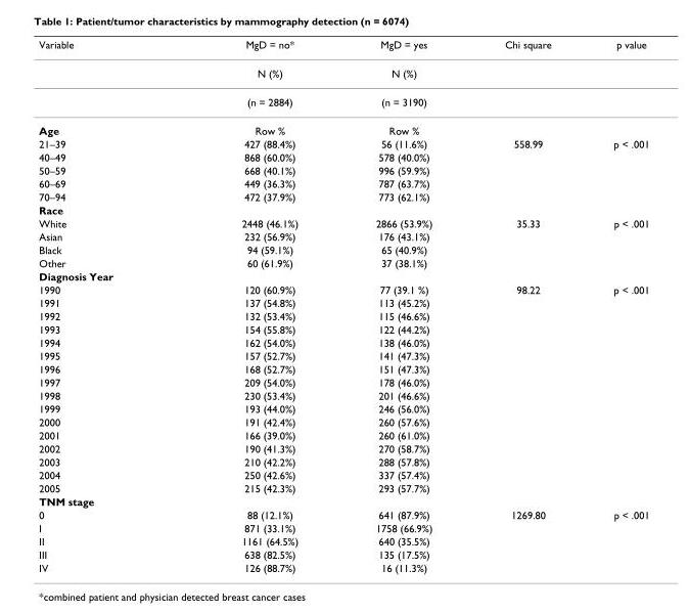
<table><thead><tr><td>Variable</td><td>MgD = no*</td><td>MgD = yes</td><td>Chi square</td><td>p value</td></tr></thead><tbody><tr><td></td><td>N (%)</td><td>N (%)</td><td></td><td></td></tr><tr><td></td><td>(n = 2884)</td><td>(n = 3190)</td><td></td><td></td></tr><tr><td>Age</td><td>Row %</td><td>Row %</td><td></td><td></td></tr><tr><td>21–39</td><td>427 (88.4%)</td><td>56 (11.6%)</td><td>558.99</td><td>p &lt; .001</td></tr><tr><td>40–49</td><td>868 (60.0%)</td><td>578 (40.0%)</td><td></td><td></td></tr><tr><td>50–59</td><td>668 (40.1%)</td><td>996 (59.9%)</td><td></td><td></td></tr><tr><td>60–69</td><td>449 (36.3%)</td><td>787 (63.7%)</td><td></td><td></td></tr><tr><td>70–94</td><td>472 (37.9%)</td><td>773 (62.1%)</td><td></td><td></td></tr><tr><td colspan="5">Race</td></tr><tr><td>White</td><td>2448 (46.1%)</td><td>2866 (53.9%)</td><td>35.33</td><td>p &lt; .001</td></tr><tr><td>Asian</td><td>232 (56.9%)</td><td>176 (43.1%)</td><td></td><td></td></tr><tr><td>Black</td><td>94 (59.1%)</td><td>65 (40.9%)</td><td></td><td></td></tr><tr><td>Other</td><td>60 (61.9%)</td><td>37 (38.1%)</td><td></td><td></td></tr><tr><td colspan="5">Diagnosis Year</td></tr><tr><td>1990</td><td>120 (60.9%)</td><td>77 (39.1 %)</td><td>98.22</td><td>p &lt; .001</td></tr><tr><td>1991</td><td>137 (54.8%)</td><td>113 (45.2%)</td><td></td><td></td></tr><tr><td>1992</td><td>132 (53.4%)</td><td>115 (46.6%)</td><td></td><td></td></tr><tr><td>1993</td><td>154 (55.8%)</td><td>122 (44.2%)</td><td></td><td></td></tr><tr><td>1994</td><td>162 (54.0%)</td><td>138 (46.0%)</td><td></td><td></td></tr><tr><td>1995</td><td>157 (52.7%)</td><td>141 (47.3%)</td><td></td><td></td></tr><tr><td>1996</td><td>168 (52.7%)</td><td>151 (47.3%)</td><td></td><td></td></tr><tr><td>1997</td><td>209 (54.0%)</td><td>178 (46.0%)</td><td></td><td></td></tr><tr><td>1998</td><td>230 (53.4%)</td><td>201 (46.6%)</td><td></td><td></td></tr><tr><td>1999</td><td>193 (44.0%)</td><td>246 (56.0%)</td><td></td><td></td></tr><tr><td>2000</td><td>191 (42.4%)</td><td>260 (57.6%)</td><td></td><td></td></tr><tr><td>2001</td><td>166 (39.0%)</td><td>260 (61.0%)</td><td></td><td></td></tr><tr><td>2002</td><td>190 (41.3%)</td><td>270 (58.7%)</td><td></td><td></td></tr><tr><td>2003</td><td>210 (42.2%)</td><td>288 (57.8%)</td><td></td><td></td></tr><tr><td>2004</td><td>250 (42.6%)</td><td>337 (57.4%)</td><td></td><td></td></tr><tr><td>2005</td><td>215 (42.3%)</td><td>293 (57.7%)</td><td></td><td></td></tr><tr><td colspan="5">TNM stage</td></tr><tr><td>0</td><td>88 (12.1%)</td><td>641 (87.9%)</td><td>1269.80</td><td>p &lt; .001</td></tr><tr><td>I</td><td>871 (33.1%)</td><td>1758 (66.9%)</td><td></td><td></td></tr><tr><td>II</td><td>1161 (64.5%)</td><td>640 (35.5%)</td><td></td><td></td></tr><tr><td>III</td><td>638 (82.5%)</td><td>135 (17.5%)</td><td></td><td></td></tr><tr><td>IV</td><td>126 (88.7%)</td><td>16 (11.3%)</td><td></td><td></td></tr></tbody></table>